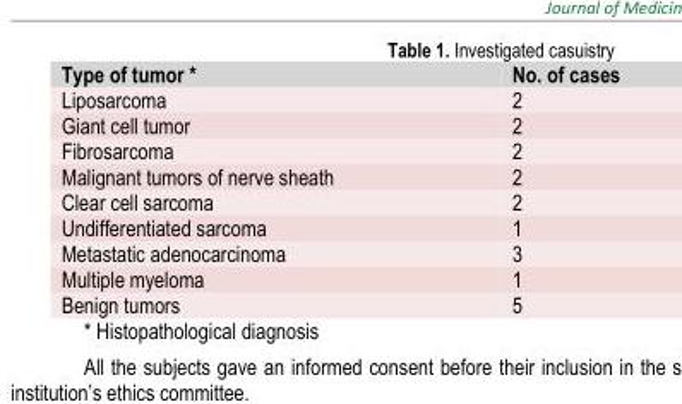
<table><thead><tr><td>Type of tumor *</td><td>No. of cases</td></tr></thead><tbody><tr><td>Liposarcoma</td><td>2</td></tr><tr><td>Giant cell tumor</td><td>2</td></tr><tr><td>Fibrosarcoma</td><td>2</td></tr><tr><td>Malignant tumors of nerve sheath</td><td>2</td></tr><tr><td>Clear cell sarcoma</td><td>2</td></tr><tr><td>Undifferentiated sarcoma</td><td>1</td></tr><tr><td>Metastatic adenocarcinoma</td><td>3</td></tr><tr><td>Multiple myeloma</td><td>1</td></tr><tr><td>Benign tumors</td><td>5</td></tr><tr><td>* Histopathological diagnosis</td><td></td></tr></tbody></table>